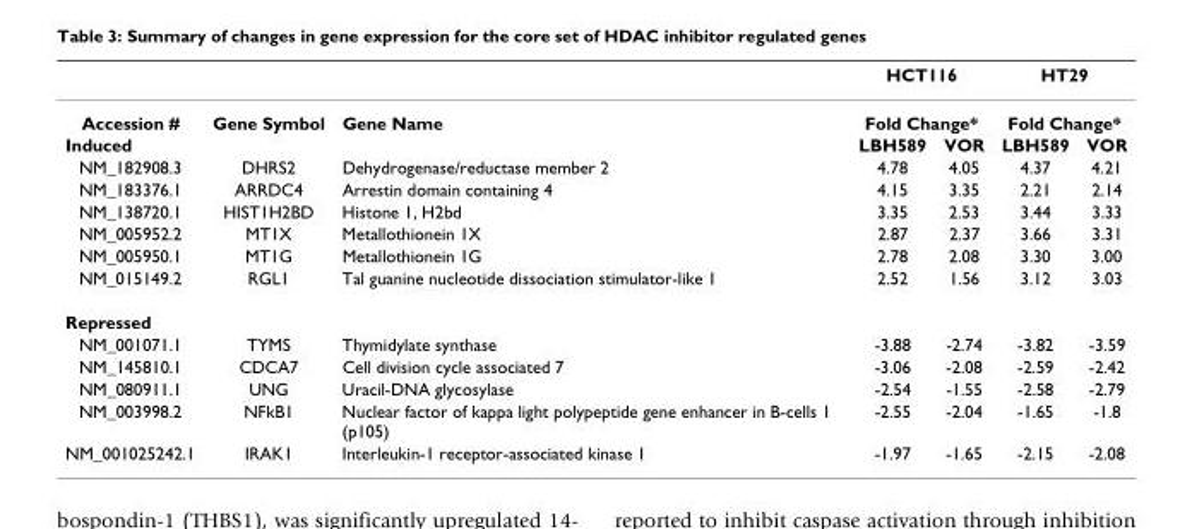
<table><thead><tr><td rowspan="3">Accession # Induced</td><td rowspan="3">Gene Symbol</td><td rowspan="3">Gene Name</td><td rowspan="2" colspan="2">HCT116 Fold Change*</td><td rowspan="2" colspan="2">HT29 Fold Change*</td></tr><tr></tr><tr><td>LBH589</td><td>VOR</td><td>LBH589</td><td>VOR</td></tr></thead><tbody><tr><td>NM_182908.3</td><td>DHRS2</td><td>Dehydrogenase/reductase member 2</td><td>4.78</td><td>4.05</td><td>4.37</td><td>4.21</td></tr><tr><td>NM_183376.1</td><td>ARRDC4</td><td>Arrestin domain containing 4</td><td>4.15</td><td>3.35</td><td>2.21</td><td>2.14</td></tr><tr><td>NM_138720.1</td><td>HIST1H2BD</td><td>Histone 1, H2bd</td><td>3.35</td><td>2.53</td><td>3.44</td><td>3.33</td></tr><tr><td>NM_005952.2</td><td>MT1X</td><td>Metallothionein 1X</td><td>2.87</td><td>2.37</td><td>3.66</td><td>3.31</td></tr><tr><td>NM_005950.1</td><td>MT1G</td><td>Metallothionein 1G</td><td>2.78</td><td>2.08</td><td>3.30</td><td>3.00</td></tr><tr><td>NM_015149.2</td><td>RGL1</td><td>Tal guanine nucleotide dissociation stimulator-like 1</td><td>2.52</td><td>1.56</td><td>3.12</td><td>3.03</td></tr><tr><td colspan="7">Repressed</td></tr><tr><td>NM_001071.1</td><td>TYMS</td><td>Thymidylate synthase</td><td>-3.88</td><td>-2.74</td><td>-3.82</td><td>-3.59</td></tr><tr><td>NM_145810.1</td><td>CDCA7</td><td>Cell division cycle associated 7</td><td>-3.06</td><td>-2.08</td><td>-2.59</td><td>-2.42</td></tr><tr><td>NM_080911.1</td><td>UNG</td><td>Uracil-DNA glycosylase</td><td>-2.54</td><td>-1.55</td><td>-2.58</td><td>-2.79</td></tr><tr><td>NM_003998.2</td><td>NFkB1</td><td>Nuclear factor of kappa light polypeptide gene enhancer in B-cells 1 (p105)</td><td>-2.55</td><td>-2.04</td><td>-1.65</td><td>-1.8</td></tr><tr><td>NM_001025242.1</td><td>IRAK1</td><td>Interleukin-1 receptor-associated kinase 1</td><td>-1.97</td><td>-1.65</td><td>-2.15</td><td>-2.08</td></tr></tbody></table>